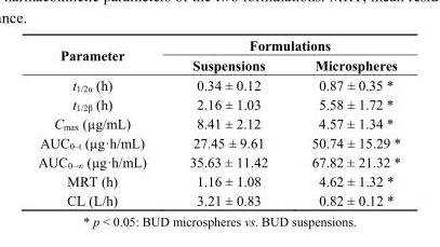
<table><thead><tr><td rowspan="2">Parameter</td><td colspan="2">Formulations</td></tr><tr><td>Suspensions</td><td>Microspheres</td></tr></thead><tbody><tr><td>t<sub>1/2α</sub> (h)</td><td>0.34 ± 0.12</td><td>0.87 ± 0.35 *</td></tr><tr><td>t<sub>1/2β</sub> (h)</td><td>2.16 ± 1.03</td><td>5.58 ± 1.72 *</td></tr><tr><td>C<sub>max</sub> (µg/mL)</td><td>8.41 ± 2.12</td><td>4.57 ± 1.34 *</td></tr><tr><td>AUC<sub>0–t</sub> (µg·h/mL)</td><td>27.45 ± 9.61</td><td>50.74 ± 15.29 *</td></tr><tr><td>AUC<sub>0–∞</sub> (µg·h/mL)</td><td>35.63 ± 11.42</td><td>67.82 ± 21.32 *</td></tr><tr><td>MRT (h)</td><td>1.16 ± 1.08</td><td>4.62 ± 1.32 *</td></tr><tr><td>CL (L/h)</td><td>3.21 ± 0.83</td><td>0.82 ± 0.12 *</td></tr></tbody></table>